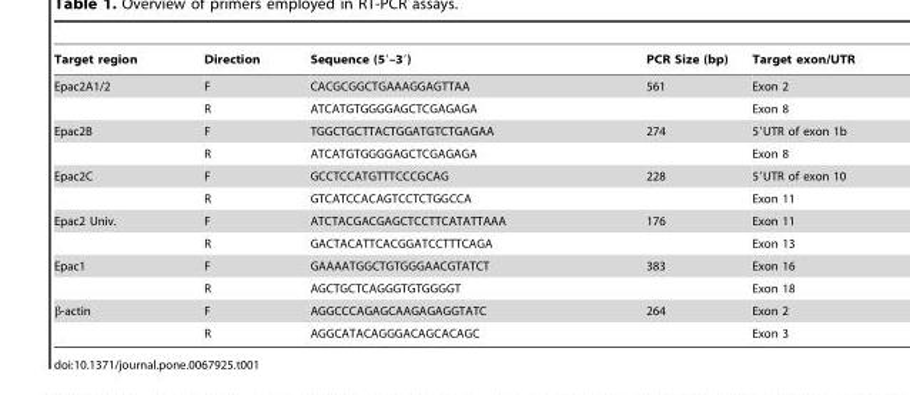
<table><thead><tr><td>Target region</td><td>Direction</td><td>Sequence (5′–3′)</td><td>PCR Size (bp)</td><td>Target exon/UTR</td></tr></thead><tbody><tr><td rowspan="2">Epac2A1/2</td><td>F</td><td>CACGCGGCTGAAAGGAGTTAA</td><td>561</td><td>Exon 2</td></tr><tr><td>R</td><td>ATCATGTGGGGAGCTCGAGAGA</td><td></td><td>Exon 8</td></tr><tr><td rowspan="2">Epac2B</td><td>F</td><td>TGGCTGCTTACTGGATGTCTGAGAA</td><td>274</td><td>5′UTR of exon 1b</td></tr><tr><td>R</td><td>ATCATGTGGGGAGCTCGAGAGA</td><td></td><td>Exon 8</td></tr><tr><td rowspan="2">Epac2C</td><td>F</td><td>GCCTCCATGTTTCCCGCAG</td><td>228</td><td>5′UTR of exon 10</td></tr><tr><td>R</td><td>GTCATCCACAGTCCTCTGGCCA</td><td></td><td>Exon 11</td></tr><tr><td rowspan="2">Epac2 Univ.</td><td>F</td><td>ATCTACGACGAGCTCCTTCATATTAAA</td><td>176</td><td>Exon 11</td></tr><tr><td>R</td><td>GACTACATTCACGGATCCTTTCAGA</td><td></td><td>Exon 13</td></tr><tr><td rowspan="2">Epac1</td><td>F</td><td>GAAAATGGCTGTGGGAACGTATCT</td><td>383</td><td>Exon 16</td></tr><tr><td>R</td><td>AGCTGCTCAGGGTGTGGGGT</td><td></td><td>Exon 18</td></tr><tr><td rowspan="2">β-actin</td><td>F</td><td>AGGCCCAGAGCAAGAGAGGTATC</td><td>264</td><td>Exon 2</td></tr><tr><td>R</td><td>AGGCATACAGGGACAGCACAGC</td><td></td><td>Exon 3</td></tr></tbody></table>